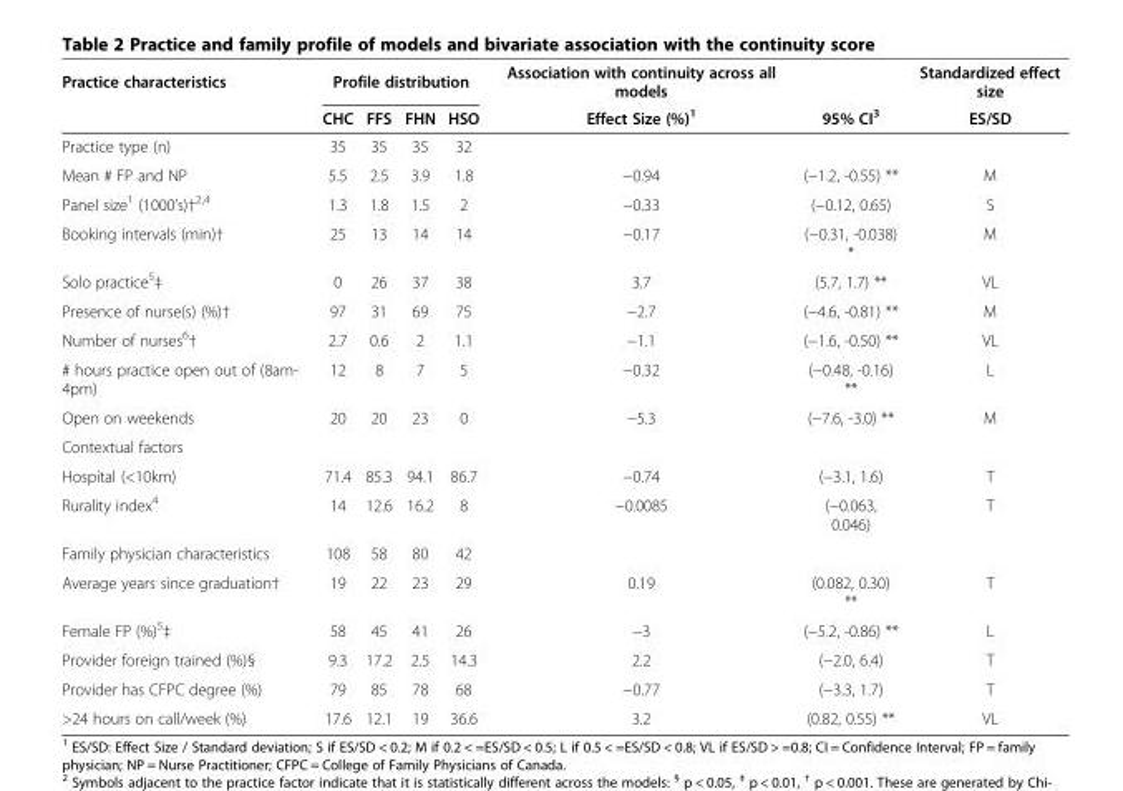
<table><thead><tr><td rowspan="2">Practice characteristics</td><td colspan="4">Profile distribution</td><td rowspan="2">Association with continuity across all models Effect Size (%)<sup>1</sup></td><td rowspan="2">95% CI<sup>3</sup></td><td rowspan="2">Standardized effect size ES/SD</td></tr><tr><td>CHC</td><td>FFS</td><td>FHN</td><td>HSO</td></tr></thead><tbody><tr><td>Practice type (n)</td><td>35</td><td>35</td><td>35</td><td>32</td><td></td><td></td><td></td></tr><tr><td>Mean # FP and NP</td><td>5.5</td><td>2.5</td><td>3.9</td><td>1.8</td><td>−0.94</td><td>(−1.2, -0.55) **</td><td>M</td></tr><tr><td>Panel size<sup>1</sup> (1000’s)†<sup>2,4</sup></td><td>1.3</td><td>1.8</td><td>1.5</td><td>2</td><td>−0.33</td><td>(−0.12, 0.65)</td><td>S</td></tr><tr><td>Booking intervals (min)†</td><td>25</td><td>13</td><td>14</td><td>14</td><td>−0.17</td><td>(−0.31, -0.038) *</td><td>M</td></tr><tr><td>Solo practice<sup>5</sup>‡</td><td>0</td><td>26</td><td>37</td><td>38</td><td>3.7</td><td>(5.7, 1.7) **</td><td>VL</td></tr><tr><td>Presence of nurse(s) (%)†</td><td>97</td><td>31</td><td>69</td><td>75</td><td>−2.7</td><td>(−4.6, -0.81) **</td><td>M</td></tr><tr><td>Number of nurses<sup>6</sup>†</td><td>2.7</td><td>0.6</td><td>2</td><td>1.1</td><td>−1.1</td><td>(−1.6, -0.50) **</td><td>VL</td></tr><tr><td># hours practice open out of (8am- 4pm)</td><td>12</td><td>8</td><td>7</td><td>5</td><td>−0.32</td><td>(−0.48, -0.16) **</td><td>L</td></tr><tr><td>Open on weekends</td><td>20</td><td>20</td><td>23</td><td>0</td><td>−5.3</td><td>(−7.6, -3.0) **</td><td>M</td></tr><tr><td colspan="8">Contextual factors</td></tr><tr><td>Hospital (&lt;10km)</td><td>71.4</td><td>85.3</td><td>94.1</td><td>86.7</td><td>−0.74</td><td>(−3.1, 1.6)</td><td>T</td></tr><tr><td>Rurality index<sup>4</sup></td><td>14</td><td>12.6</td><td>16.2</td><td>8</td><td>−0.0085</td><td>(−0.063, 0.046)</td><td>T</td></tr><tr><td>Family physician characteristics</td><td>108</td><td>58</td><td>80</td><td>42</td><td></td><td></td><td></td></tr><tr><td>Average years since graduation†</td><td>19</td><td>22</td><td>23</td><td>29</td><td>0.19</td><td>(0.082, 0.30) **</td><td>T</td></tr><tr><td>Female FP (%)<sup>5</sup>‡</td><td>58</td><td>45</td><td>41</td><td>26</td><td>−3</td><td>(−5.2, -0.86) **</td><td>L</td></tr><tr><td>Provider foreign trained (%)§</td><td>9.3</td><td>17.2</td><td>2.5</td><td>14.3</td><td>2.2</td><td>(−2.0, 6.4)</td><td>T</td></tr><tr><td>Provider has CFPC degree (%)</td><td>79</td><td>85</td><td>78</td><td>68</td><td>−0.77</td><td>(−3.3, 1.7)</td><td>T</td></tr><tr><td>&gt;24 hours on call/week (%)</td><td>17.6</td><td>12.1</td><td>19</td><td>36.6</td><td>3.2</td><td>(0.82, 0.55) **</td><td>VL</td></tr></tbody></table>